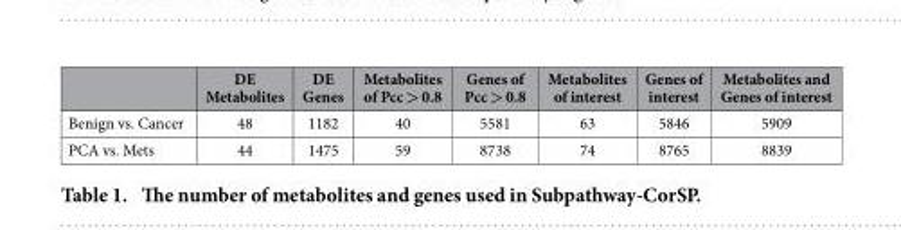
<table><thead><tr><td></td><td>DE Metabolites</td><td>DE Genes</td><td>Metabolites of Pcc &gt; 0.8</td><td>Genes of Pcc &gt; 0.8</td><td>Metabolites of interest</td><td>Genes of interest</td><td>Metabolites and Genes of interest</td></tr></thead><tbody><tr><td>Benign vs. Cancer</td><td>48</td><td>1182</td><td>40</td><td>5581</td><td>63</td><td>5846</td><td>5909</td></tr><tr><td>PCA vs. Mets</td><td>44</td><td>1475</td><td>59</td><td>8738</td><td>74</td><td>8765</td><td>8839</td></tr></tbody></table>